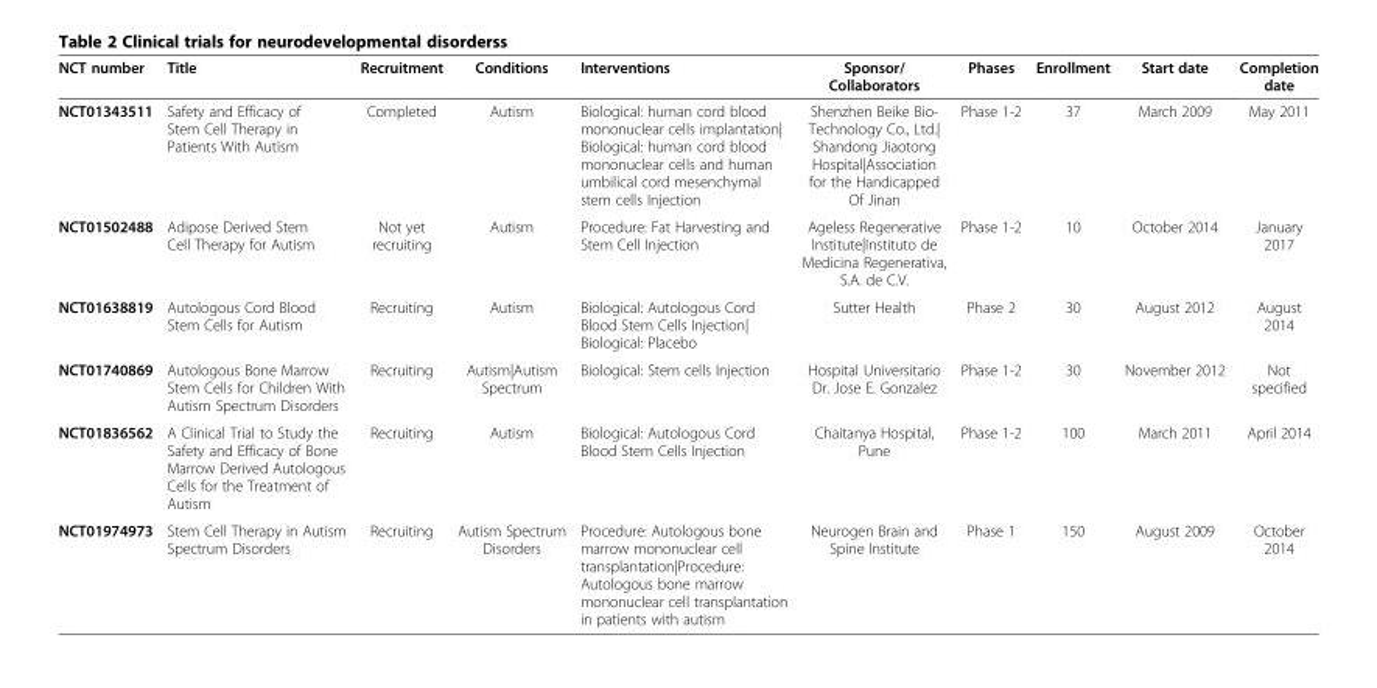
<table><thead><tr><td>NCT number</td><td>Title</td><td>Recruitment</td><td>Conditions</td><td>Interventions</td><td>Sponsor/ Collaborators</td><td>Phases</td><td>Enrollment</td><td>Start date</td><td>Completion date</td></tr></thead><tbody><tr><td>NCT01343511</td><td>Safety and Efficacy of Stem Cell Therapy in Patients With Autism</td><td>Completed</td><td>Autism</td><td>Biological: human cord blood mononuclear cells implantation| Biological: human cord blood mononuclear cells and human umbilical cord mesenchymal stem cells Injection</td><td>Shenzhen Beike Bio- Technology Co., Ltd.| Shandong Jiaotong Hospital|Association for the Handicapped Of Jinan</td><td>Phase 1-2</td><td>37</td><td>March 2009</td><td>May 2011</td></tr><tr><td>NCT01502488</td><td>Adipose Derived Stem Cell Therapy for Autism</td><td>Not yet recruiting</td><td>Autism</td><td>Procedure: Fat Harvesting and Stem Cell Injection</td><td>Ageless Regenerative Institute|Instituto de Medicina Regenerativa, S.A. de C.V.</td><td>Phase 1-2</td><td>10</td><td>October 2014</td><td>January 2017</td></tr><tr><td>NCT01638819</td><td>Autologous Cord Blood Stem Cells for Autism</td><td>Recruiting</td><td>Autism</td><td>Biological: Autologous Cord Blood Stem Cells Injection| Biological: Placebo</td><td>Sutter Health</td><td>Phase 2</td><td>30</td><td>August 2012</td><td>August 2014</td></tr><tr><td>NCT01740869</td><td>Autologous Bone Marrow Stem Cells for Children With Autism Spectrum Disorders</td><td>Recruiting</td><td>Autism|Autism Spectrum</td><td>Biological: Stem cells Injection</td><td>Hospital Universitario Dr. Jose E. Gonzalez</td><td>Phase 1-2</td><td>30</td><td>November 2012</td><td>Not specified</td></tr><tr><td>NCT01836562</td><td>A Clinical Trial to Study the Safety and Efficacy of Bone Marrow Derived Autologous Cells for the Treatment of Autism</td><td>Recruiting</td><td>Autism</td><td>Biological: Autologous Cord Blood Stem Cells Injection</td><td>Chaitanya Hospital, Pune</td><td>Phase 1-2</td><td>100</td><td>March 2011</td><td>April 2014</td></tr><tr><td>NCT01974973</td><td>Stem Cell Therapy in Autism Spectrum Disorders</td><td>Recruiting</td><td>Autism Spectrum Disorders</td><td>Procedure: Autologous bone marrow mononuclear cell transplantation|Procedure: Autologous bone marrow mononuclear cell transplantation in patients with autism</td><td>Neurogen Brain and Spine Institute</td><td>Phase 1</td><td>150</td><td>August 2009</td><td>October 2014</td></tr></tbody></table>